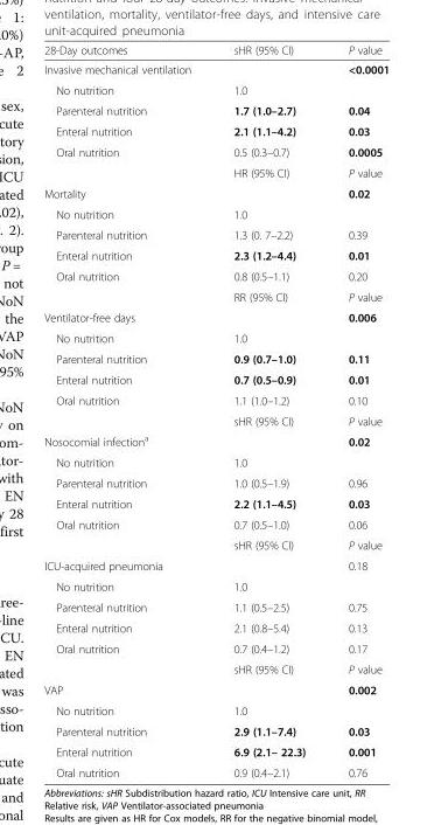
<table><thead><tr><td>28-Day outcomes</td><td>sHR (95% CI)</td><td>P value</td></tr></thead><tbody><tr><td>Invasive mechanical ventilation</td><td></td><td>&lt;0.0001</td></tr><tr><td>No nutrition</td><td>1.0</td><td></td></tr><tr><td>Parenteral nutrition</td><td>1.7 (1.0–2.7)</td><td>0.04</td></tr><tr><td>Enteral nutrition</td><td>2.1 (1.1–4.2)</td><td>0.03</td></tr><tr><td rowspan="2">Oral nutrition</td><td>0.5 (0.3–0.7)</td><td>0.0005</td></tr><tr><td>HR (95% CI)</td><td>P value</td></tr><tr><td>Mortality</td><td></td><td>0.02</td></tr><tr><td>No nutrition</td><td>1.0</td><td></td></tr><tr><td>Parenteral nutrition</td><td>1.3 (0. 7–2.2)</td><td>0.39</td></tr><tr><td>Enteral nutrition</td><td>2.3 (1.2–4.4)</td><td>0.01</td></tr><tr><td rowspan="2">Oral nutrition</td><td>0.8 (0.5–1.1)</td><td>0.20</td></tr><tr><td>RR (95% CI)</td><td>P value</td></tr><tr><td>Ventilator-free days</td><td></td><td>0.006</td></tr><tr><td>No nutrition</td><td>1.0</td><td></td></tr><tr><td>Parenteral nutrition</td><td>0.9 (0.7–1.0)</td><td>0.11</td></tr><tr><td>Enteral nutrition</td><td>0.7 (0.5–0.9)</td><td>0.01</td></tr><tr><td rowspan="2">Oral nutrition</td><td>1.1 (1.0–1.2)</td><td>0.10</td></tr><tr><td>sHR (95% CI)</td><td>P value</td></tr><tr><td>Nosocomial infection<sup>a</sup></td><td></td><td>0.02</td></tr><tr><td>No nutrition</td><td>1.0</td><td></td></tr><tr><td>Parenteral nutrition</td><td>1.0 (0.5–1.9)</td><td>0.96</td></tr><tr><td>Enteral nutrition</td><td>2.2 (1.1–4.5)</td><td>0.03</td></tr><tr><td rowspan="2">Oral nutrition</td><td>0.7 (0.5–1.0)</td><td>0.06</td></tr><tr><td>sHR (95% CI)</td><td>P value</td></tr><tr><td>ICU-acquired pneumonia</td><td></td><td>0.18</td></tr><tr><td>No nutrition</td><td>1.0</td><td></td></tr><tr><td>Parenteral nutrition</td><td>1.1 (0.5–2.5)</td><td>0.75</td></tr><tr><td>Enteral nutrition</td><td>2.1 (0.8–5.4)</td><td>0.13</td></tr><tr><td rowspan="2">Oral nutrition</td><td>0.7 (0.4–1.2)</td><td>0.17</td></tr><tr><td>sHR (95% CI)</td><td>P value</td></tr><tr><td>VAP</td><td></td><td>0.002</td></tr><tr><td>No nutrition</td><td>1.0</td><td></td></tr><tr><td>Parenteral nutrition</td><td>2.9 (1.1–7.4)</td><td>0.03</td></tr><tr><td>Enteral nutrition</td><td>6.9 (2.1– 22.3)</td><td>0.001</td></tr><tr><td>Oral nutrition</td><td>0.9 (0.4–2.1)</td><td>0.76</td></tr></tbody></table>